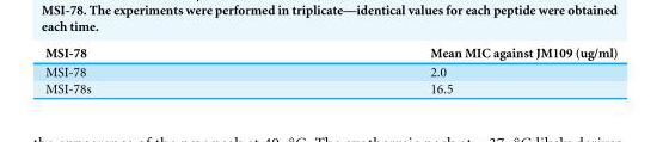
<table><thead><tr><td>MSI-78</td><td>Mean MIC against JM109 (ug/ml)</td></tr></thead><tbody><tr><td>MSI-78</td><td>2.0</td></tr><tr><td>MSI-78s</td><td>16.5</td></tr></tbody></table>